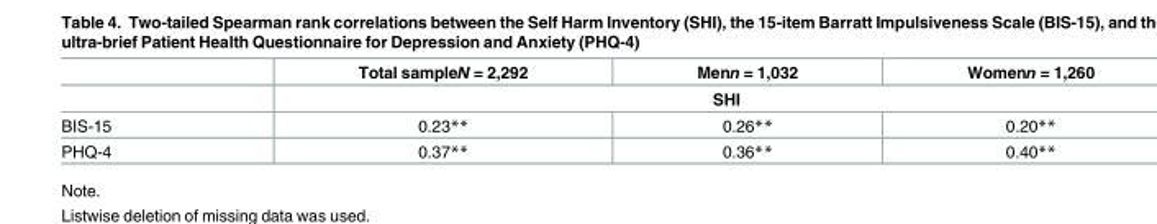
<table><thead><tr><td rowspan="2"></td><td>Total sampleN = 2,292</td><td>Menn = 1,032</td><td>Womenn = 1,260</td></tr><tr><td colspan="3">SHI</td></tr></thead><tbody><tr><td>BIS-15</td><td>0.23**</td><td>0.26**</td><td>0.20**</td></tr><tr><td>PHQ-4</td><td>0.37**</td><td>0.36**</td><td>0.40**</td></tr></tbody></table>